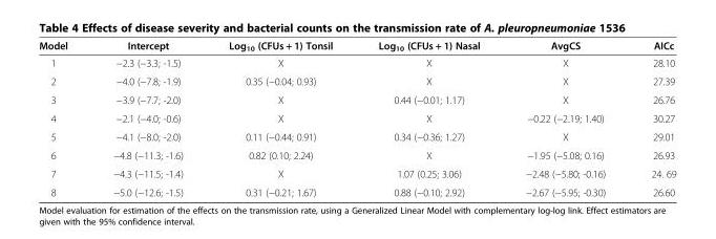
<table><thead><tr><td>Model</td><td>Intercept</td><td>Log<sub>10</sub> (CFUs + 1) Tonsil</td><td>Log<sub>10</sub> (CFUs + 1) Nasal</td><td>AvgCS</td><td>AICc</td></tr></thead><tbody><tr><td>1</td><td>−2.3 (−3.3; -1.5)</td><td>X</td><td>X</td><td>X</td><td>28.10</td></tr><tr><td>2</td><td>−4.0 (−7.8; -1.9)</td><td>0.35 (−0.04; 0.93)</td><td>X</td><td>X</td><td>27.39</td></tr><tr><td>3</td><td>−3.9 (−7.7; -2.0)</td><td>X</td><td>0.44 (−0.01; 1.17)</td><td>X</td><td>26.76</td></tr><tr><td>4</td><td>−2.1 (−4.0; -0.6)</td><td>X</td><td>X</td><td>−0.22 (−2.19; 1.40)</td><td>30.27</td></tr><tr><td>5</td><td>−4.1 (−8.0; -2.0)</td><td>0.11 (−0.44; 0.91)</td><td>0.34 (−0.36; 1.27)</td><td>X</td><td>29.01</td></tr><tr><td>6</td><td>−4.8 (−11.3; -1.6)</td><td>0.82 (0.10; 2.24)</td><td>X</td><td>−1.95 (−5.08; 0.16)</td><td>26.93</td></tr><tr><td>7</td><td>−4.3 (−11.5; -1.4)</td><td>X</td><td>1.07 (0.25; 3.06)</td><td>−2.48 (−5.80; -0.16)</td><td>24. 69</td></tr><tr><td>8</td><td>−5.0 (−12.6; -1.5)</td><td>0.31 (−0.21; 1.67)</td><td>0.88 (−0.10; 2.92)</td><td>−2.67 (−5.95; -0.30)</td><td>26.60</td></tr></tbody></table>